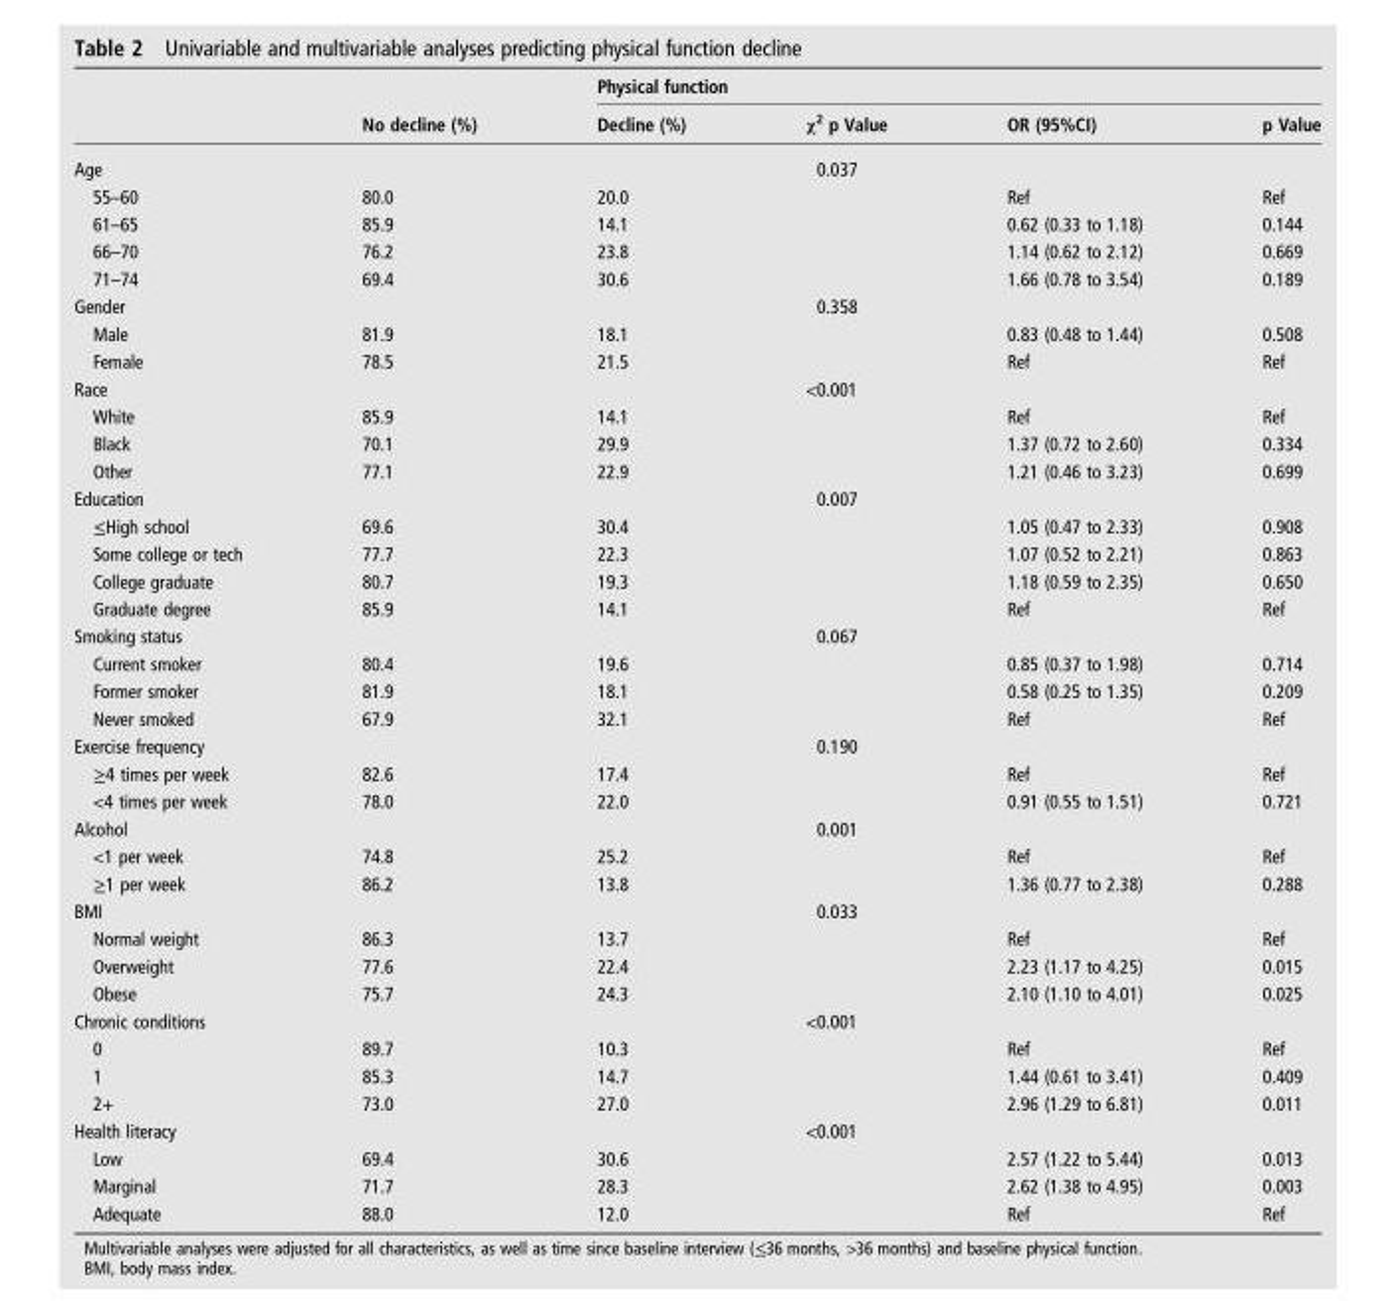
<table><thead><tr><td rowspan="2"></td><td rowspan="2">No decline (%)</td><td colspan="4">Physical function</td></tr><tr><td>Decline (%)</td><td>χ<sup>2</sup> p Value</td><td>OR (95%CI)</td><td>p Value</td></tr></thead><tbody><tr><td>Age</td><td></td><td></td><td>0.037</td><td></td><td></td></tr><tr><td>55–60</td><td>80.0</td><td>20.0</td><td></td><td>Ref</td><td>Ref</td></tr><tr><td>61–65</td><td>85.9</td><td>14.1</td><td></td><td>0.62 (0.33 to 1.18)</td><td>0.144</td></tr><tr><td>66–70</td><td>76.2</td><td>23.8</td><td></td><td>1.14 (0.62 to 2.12)</td><td>0.669</td></tr><tr><td>71–74</td><td>69.4</td><td>30.6</td><td></td><td>1.66 (0.78 to 3.54)</td><td>0.189</td></tr><tr><td>Gender</td><td></td><td></td><td>0.358</td><td></td><td></td></tr><tr><td>Male</td><td>81.9</td><td>18.1</td><td></td><td>0.83 (0.48 to 1.44)</td><td>0.508</td></tr><tr><td>Female</td><td>78.5</td><td>21.5</td><td></td><td>Ref</td><td>Ref</td></tr><tr><td>Race</td><td></td><td></td><td>&lt;0.001</td><td></td><td></td></tr><tr><td>White</td><td>85.9</td><td>14.1</td><td></td><td>Ref</td><td>Ref</td></tr><tr><td>Black</td><td>70.1</td><td>29.9</td><td></td><td>1.37 (0.72 to 2.60)</td><td>0.334</td></tr><tr><td>Other</td><td>77.1</td><td>22.9</td><td></td><td>1.21 (0.46 to 3.23)</td><td>0.699</td></tr><tr><td>Education</td><td></td><td></td><td>0.007</td><td></td><td></td></tr><tr><td>≤High school</td><td>69.6</td><td>30.4</td><td></td><td>1.05 (0.47 to 2.33)</td><td>0.908</td></tr><tr><td>Some college or tech</td><td>77.7</td><td>22.3</td><td></td><td>1.07 (0.52 to 2.21)</td><td>0.863</td></tr><tr><td>College graduate</td><td>80.7</td><td>19.3</td><td></td><td>1.18 (0.59 to 2.35)</td><td>0.650</td></tr><tr><td>Graduate degree</td><td>85.9</td><td>14.1</td><td></td><td>Ref</td><td>Ref</td></tr><tr><td>Smoking status</td><td></td><td></td><td>0.067</td><td></td><td></td></tr><tr><td>Current smoker</td><td>80.4</td><td>19.6</td><td></td><td>0.85 (0.37 to 1.98)</td><td>0.714</td></tr><tr><td>Former smoker</td><td>81.9</td><td>18.1</td><td></td><td>0.58 (0.25 to 1.35)</td><td>0.209</td></tr><tr><td>Never smoked</td><td>67.9</td><td>32.1</td><td></td><td>Ref</td><td>Ref</td></tr><tr><td>Exercise frequency</td><td></td><td></td><td>0.190</td><td></td><td></td></tr><tr><td>≥4 times per week</td><td>82.6</td><td>17.4</td><td></td><td>Ref</td><td>Ref</td></tr><tr><td>&lt;4 times per week</td><td>78.0</td><td>22.0</td><td></td><td>0.91 (0.55 to 1.51)</td><td>0.721</td></tr><tr><td>Alcohol</td><td></td><td></td><td>0.001</td><td></td><td></td></tr><tr><td>&lt;1 per week</td><td>74.8</td><td>25.2</td><td></td><td>Ref</td><td>Ref</td></tr><tr><td>≥1 per week</td><td>86.2</td><td>13.8</td><td></td><td>1.36 (0.77 to 2.38)</td><td>0.288</td></tr><tr><td>BMI</td><td></td><td></td><td>0.033</td><td></td><td></td></tr><tr><td>Normal weight</td><td>86.3</td><td>13.7</td><td></td><td>Ref</td><td>Ref</td></tr><tr><td>Overweight</td><td>77.6</td><td>22.4</td><td></td><td>2.23 (1.17 to 4.25)</td><td>0.015</td></tr><tr><td>Obese</td><td>75.7</td><td>24.3</td><td></td><td>2.10 (1.10 to 4.01)</td><td>0.025</td></tr><tr><td>Chronic conditions</td><td></td><td></td><td>&lt;0.001</td><td></td><td></td></tr><tr><td>0</td><td>89.7</td><td>10.3</td><td></td><td>Ref</td><td>Ref</td></tr><tr><td>1</td><td>85.3</td><td>14.7</td><td></td><td>1.44 (0.61 to 3.41)</td><td>0.409</td></tr><tr><td>2+</td><td>73.0</td><td>27.0</td><td></td><td>2.96 (1.29 to 6.81)</td><td>0.011</td></tr><tr><td>Health literacy</td><td></td><td></td><td>&lt;0.001</td><td></td><td></td></tr><tr><td>Low</td><td>69.4</td><td>30.6</td><td></td><td>2.57 (1.22 to 5.44)</td><td>0.013</td></tr><tr><td>Marginal</td><td>71.7</td><td>28.3</td><td></td><td>2.62 (1.38 to 4.95)</td><td>0.003</td></tr><tr><td>Adequate</td><td>88.0</td><td>12.0</td><td></td><td>Ref</td><td>Ref</td></tr></tbody></table>